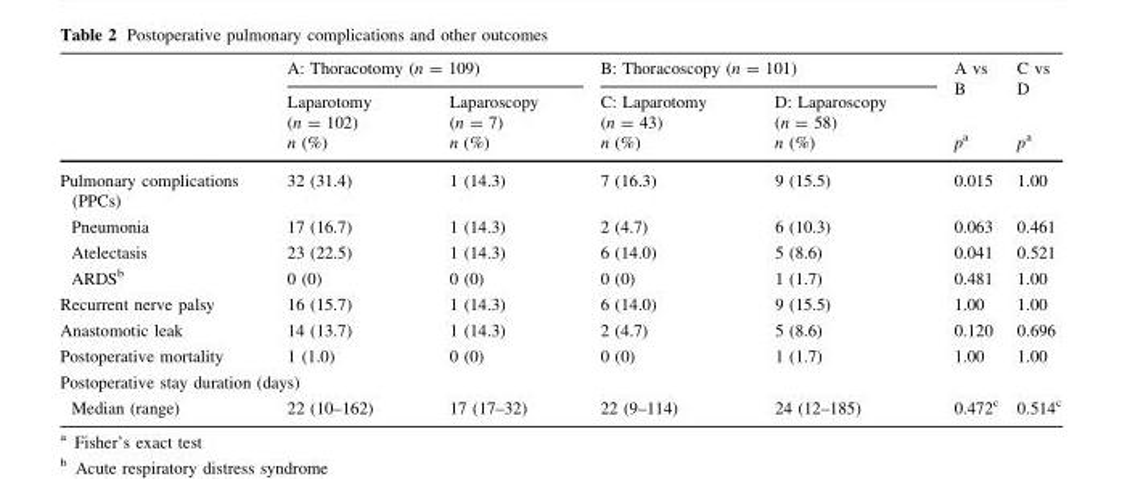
<table><thead><tr><td rowspan="3"></td><td colspan="2">A: Thoracotomy (n = 109)</td><td colspan="2">B: Thoracoscopy (n = 101)</td><td rowspan="3">A vs B p<sup>a</sup></td><td rowspan="3">C vs D p<sup>a</sup></td></tr><tr><td rowspan="2">Laparotomy (n = 102) n (%)</td><td rowspan="2">Laparoscopy (n = 7) n (%)</td><td rowspan="2">C: Laparotomy (n = 43) n (%)</td><td rowspan="2">D: Laparoscopy (n = 58) n (%)</td></tr><tr></tr></thead><tbody><tr><td>Pulmonary complications (PPCs)</td><td>32 (31.4)</td><td>1 (14.3)</td><td>7 (16.3)</td><td>9 (15.5)</td><td>0.015</td><td>1.00</td></tr><tr><td>Pneumonia</td><td>17 (16.7)</td><td>1 (14.3)</td><td>2 (4.7)</td><td>6 (10.3)</td><td>0.063</td><td>0.461</td></tr><tr><td>Atelectasis</td><td>23 (22.5)</td><td>1 (14.3)</td><td>6 (14.0)</td><td>5 (8.6)</td><td>0.041</td><td>0.521</td></tr><tr><td>ARDS<sup>b</sup></td><td>0 (0)</td><td>0 (0)</td><td>0 (0)</td><td>1 (1.7)</td><td>0.481</td><td>1.00</td></tr><tr><td>Recurrent nerve palsy</td><td>16 (15.7)</td><td>1 (14.3)</td><td>6 (14.0)</td><td>9 (15.5)</td><td>1.00</td><td>1.00</td></tr><tr><td>Anastomotic leak</td><td>14 (13.7)</td><td>1 (14.3)</td><td>2 (4.7)</td><td>5 (8.6)</td><td>0.120</td><td>0.696</td></tr><tr><td>Postoperative mortality</td><td>1 (1.0)</td><td>0 (0)</td><td>0 (0)</td><td>1 (1.7)</td><td>1.00</td><td>1.00</td></tr><tr><td colspan="7">Postoperative stay duration (days)</td></tr><tr><td>Median (range)</td><td>22 (10–162)</td><td>17 (17–32)</td><td>22 (9–114)</td><td>24 (12–185)</td><td>0.472<sup>c</sup></td><td>0.514<sup>c</sup></td></tr></tbody></table>